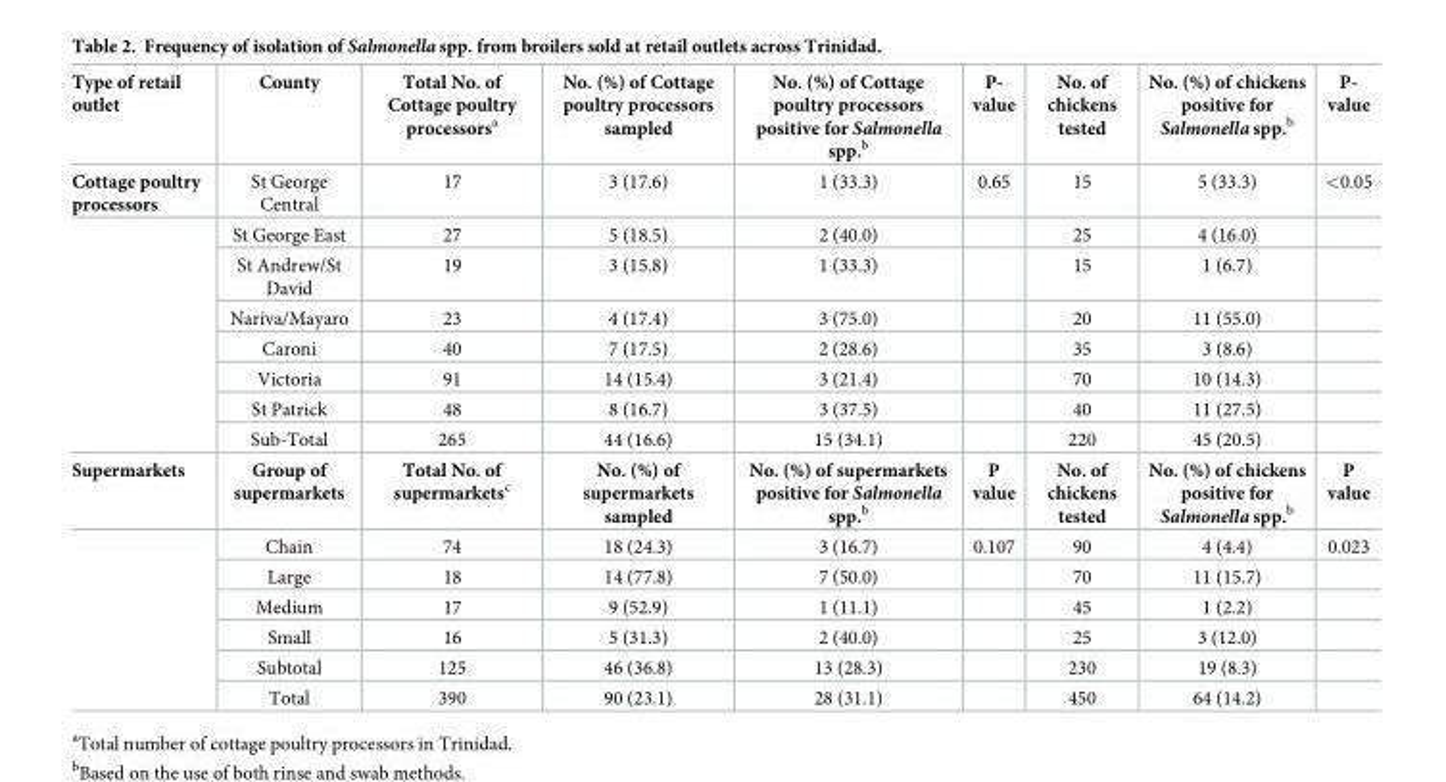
<table><tbody><tr><td>Type of retail outlet</td><td>County</td><td>Total No. of Cottage poultry processors<sup>a</sup></td><td>No. (%) of Cottage poultry processors sampled</td><td>No. (%) of Cottage poultry processors positive for Salmonella spp.<sup>b</sup></td><td>P- value</td><td>No. of chickens tested</td><td>No. (%) of chickens positive for Salmonella spp.<sup>b</sup></td><td>P- value</td></tr><tr><td rowspan="8">Cottage poultry processors</td><td>St George Central</td><td>17</td><td>3 (17.6)</td><td>1 (33.3)</td><td>0.65</td><td>15</td><td>5 (33.3)</td><td>&lt;0.05</td></tr><tr><td>St George East</td><td>27</td><td>5 (18.5)</td><td>2 (40.0)</td><td></td><td>25</td><td>4 (16.0)</td><td></td></tr><tr><td>St Andrew/St David</td><td>19</td><td>3 (15.8)</td><td>1 (33.3)</td><td></td><td>15</td><td>1 (6.7)</td><td></td></tr><tr><td>Nariva/Mayaro</td><td>23</td><td>4 (17.4)</td><td>3 (75.0)</td><td></td><td>20</td><td>11 (55.0)</td><td></td></tr><tr><td>Caroni</td><td>40</td><td>7 (17.5)</td><td>2 (28.6)</td><td></td><td>35</td><td>3 (8.6)</td><td></td></tr><tr><td>Victoria</td><td>91</td><td>14 (15.4)</td><td>3 (21.4)</td><td></td><td>70</td><td>10 (14.3)</td><td></td></tr><tr><td>St Patrick</td><td>48</td><td>8 (16.7)</td><td>3 (37.5)</td><td></td><td>40</td><td>11 (27.5)</td><td></td></tr><tr><td>Sub-Total</td><td>265</td><td>44 (16.6)</td><td>15 (34.1)</td><td></td><td>220</td><td>45 (20.5)</td><td></td></tr><tr><td rowspan="7">Supermarkets</td><td>Group of supermarkets</td><td>Total No. of supermarkets<sup>c</sup></td><td>No. (%) of supermarkets sampled</td><td>No. (%) of supermarkets positive for Salmonella spp.<sup>b</sup></td><td>P value</td><td>No. of chickens tested</td><td>No. (%) of chickens positive for Salmonella spp.<sup>b</sup></td><td>P value</td></tr><tr><td>Chain</td><td>74</td><td>18 (24.3)</td><td>3 (16.7)</td><td>0.107</td><td>90</td><td>4 (4.4)</td><td>0.023</td></tr><tr><td>Large</td><td>18</td><td>14 (77.8)</td><td>7 (50.0)</td><td></td><td>70</td><td>11 (15.7)</td><td></td></tr><tr><td>Medium</td><td>17</td><td>9 (52.9)</td><td>1 (11.1)</td><td></td><td>45</td><td>1 (2.2)</td><td></td></tr><tr><td>Small</td><td>16</td><td>5 (31.3)</td><td>2 (40.0)</td><td></td><td>25</td><td>3 (12.0)</td><td></td></tr><tr><td>Subtotal</td><td>125</td><td>46 (36.8)</td><td>13 (28.3)</td><td></td><td>230</td><td>19 (8.3)</td><td></td></tr><tr><td>Total</td><td>390</td><td>90 (23.1)</td><td>28 (31.1)</td><td></td><td>450</td><td>64 (14.2)</td><td></td></tr></tbody></table>